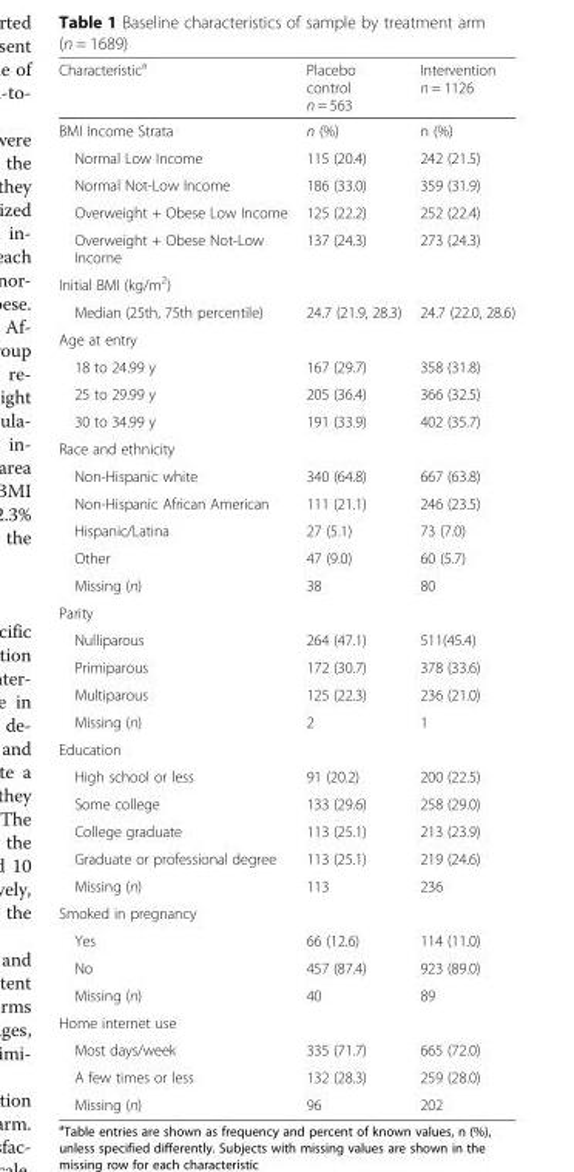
<table><thead><tr><td>Characteristic<sup>a</sup></td><td>Placebo control n = 563</td><td>Intervention n = 1126</td></tr></thead><tbody><tr><td>BMI Income Strata</td><td>n (%)</td><td>n (%)</td></tr><tr><td>Normal Low Income</td><td>115 (20.4)</td><td>242 (21.5)</td></tr><tr><td>Normal Not-Low Income</td><td>186 (33.0)</td><td>359 (31.9)</td></tr><tr><td>Overweight + Obese Low Income</td><td>125 (22.2)</td><td>252 (22.4)</td></tr><tr><td>Overweight + Obese Not-Low Income</td><td>137 (24.3)</td><td>273 (24.3)</td></tr><tr><td colspan="3">Initial BMI (kg/m<sup>2</sup>)</td></tr><tr><td>Median (25th, 75th percentile)</td><td>24.7 (21.9, 28.3)</td><td>24.7 (22.0, 28.6)</td></tr><tr><td colspan="3">Age at entry</td></tr><tr><td>18 to 24.99 y</td><td>167 (29.7)</td><td>358 (31.8)</td></tr><tr><td>25 to 29.99 y</td><td>205 (36.4)</td><td>366 (32.5)</td></tr><tr><td>30 to 34.99 y</td><td>191 (33.9)</td><td>402 (35.7)</td></tr><tr><td colspan="3">Race and ethnicity</td></tr><tr><td>Non-Hispanic white</td><td>340 (64.8)</td><td>667 (63.8)</td></tr><tr><td>Non-Hispanic African American</td><td>111 (21.1)</td><td>246 (23.5)</td></tr><tr><td>Hispanic/Latina</td><td>27 (5.1)</td><td>73 (7.0)</td></tr><tr><td>Other</td><td>47 (9.0)</td><td>60 (5.7)</td></tr><tr><td>Missing (n)</td><td>38</td><td>80</td></tr><tr><td colspan="3">Parity</td></tr><tr><td>Nulliparous</td><td>264 (47.1)</td><td>511(45.4)</td></tr><tr><td>Primiparous</td><td>172 (30.7)</td><td>378 (33.6)</td></tr><tr><td>Multiparous</td><td>125 (22.3)</td><td>236 (21.0)</td></tr><tr><td>Missing (n)</td><td>2</td><td>1</td></tr><tr><td colspan="3">Education</td></tr><tr><td>High school or less</td><td>91 (20.2)</td><td>200 (22.5)</td></tr><tr><td>Some college</td><td>133 (29.6)</td><td>258 (29.0)</td></tr><tr><td>College graduate</td><td>113 (25.1)</td><td>213 (23.9)</td></tr><tr><td>Graduate or professional degree</td><td>113 (25.1)</td><td>219 (24.6)</td></tr><tr><td>Missing (n)</td><td>113</td><td>236</td></tr><tr><td colspan="3">Smoked in pregnancy</td></tr><tr><td>Yes</td><td>66 (12.6)</td><td>114 (11.0)</td></tr><tr><td>No</td><td>457 (87.4)</td><td>923 (89.0)</td></tr><tr><td>Missing (n)</td><td>40</td><td>89</td></tr><tr><td colspan="3">Home internet use</td></tr><tr><td>Most days/week</td><td>335 (71.7)</td><td>665 (72.0)</td></tr><tr><td>A few times or less</td><td>132 (28.3)</td><td>259 (28.0)</td></tr><tr><td>Missing (n)</td><td>96</td><td>202</td></tr></tbody></table>